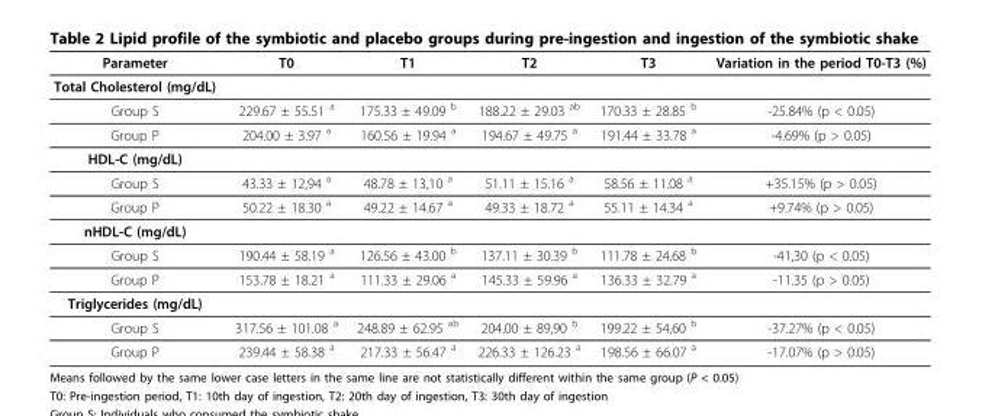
<table><thead><tr><td>Parameter</td><td>T0</td><td>T1</td><td>T2</td><td>T3</td><td>Variation in the period T0-T3 (%)</td></tr></thead><tbody><tr><td colspan="6">Total Cholesterol (mg/dL)</td></tr><tr><td>Group S</td><td>229.67 ± 55.51 <sup>a</sup></td><td>175.33 ± 49.09 <sup>b</sup></td><td>188.22 ± 29.03 <sup>ab</sup></td><td>170.33 ± 28.85 <sup>b</sup></td><td>-25.84% (p &lt; 0.05)</td></tr><tr><td>Group P</td><td>204.00 ± 3.97 <sup>a</sup></td><td>160.56 ± 19.94 <sup>a</sup></td><td>194.67 ± 49.75 <sup>a</sup></td><td>191.44 ± 33.78 <sup>a</sup></td><td>-4.69% (p &gt; 0.05)</td></tr><tr><td colspan="6">HDL-C (mg/dL)</td></tr><tr><td>Group S</td><td>43.33 ± 12,94 <sup>a</sup></td><td>48.78 ± 13,10 <sup>a</sup></td><td>51.11 ± 15.16 <sup>a</sup></td><td>58.56 ± 11.08 <sup>a</sup></td><td>+35.15% (p &gt; 0.05)</td></tr><tr><td>Group P</td><td>50.22 ± 18.30 <sup>a</sup></td><td>49.22 ± 14.67 <sup>a</sup></td><td>49.33 ± 18.72 <sup>a</sup></td><td>55.11 ± 14.34 <sup>a</sup></td><td>+9.74% (p &gt; 0.05)</td></tr><tr><td colspan="6">nHDL-C (mg/dL)</td></tr><tr><td>Group S</td><td>190.44 ± 58.19 <sup>a</sup></td><td>126.56 ± 43.00 <sup>b</sup></td><td>137.11 ± 30.39 <sup>b</sup></td><td>111.78 ± 24.68 <sup>b</sup></td><td>-41,30 (p &lt; 0.05)</td></tr><tr><td>Group P</td><td>153.78 ± 18.21 <sup>a</sup></td><td>111.33 ± 29.06 <sup>a</sup></td><td>145.33 ± 59.96 <sup>a</sup></td><td>136.33 ± 32.79 <sup>a</sup></td><td>-11.35 (p &gt; 0.05)</td></tr><tr><td colspan="6">Triglycerides (mg/dL)</td></tr><tr><td>Group S</td><td>317.56 ± 101.08 <sup>a</sup></td><td>248.89 ± 62.95 <sup>ab</sup></td><td>204.00 ± 89,90 <sup>b</sup></td><td>199.22 ± 54,60 <sup>b</sup></td><td>-37.27% (p &lt; 0.05)</td></tr><tr><td>Group P</td><td>239.44 ± 58.38 <sup>a</sup></td><td>217.33 ± 56.47 <sup>a</sup></td><td>226.33 ± 126.23 <sup>a</sup></td><td>198.56 ± 66.07 <sup>a</sup></td><td>-17.07% (p &gt; 0.05)</td></tr></tbody></table>